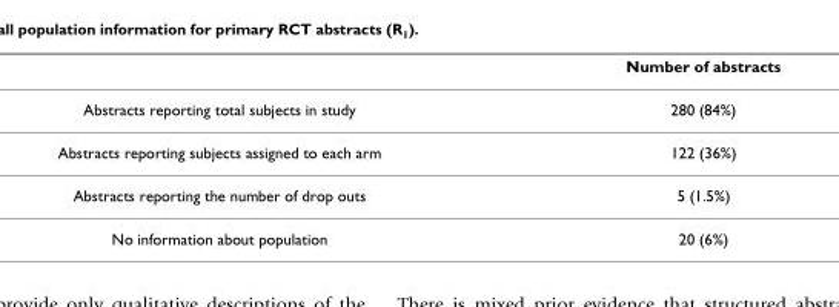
<table><thead><tr><td></td><td>Number of abstracts</td></tr></thead><tbody><tr><td>Abstracts reporting total subjects in study</td><td>280 (84%)</td></tr><tr><td>Abstracts reporting subjects assigned to each arm</td><td>122 (36%)</td></tr><tr><td>Abstracts reporting the number of drop outs</td><td>5 (1.5%)</td></tr><tr><td>No information about population</td><td>20 (6%)</td></tr></tbody></table>